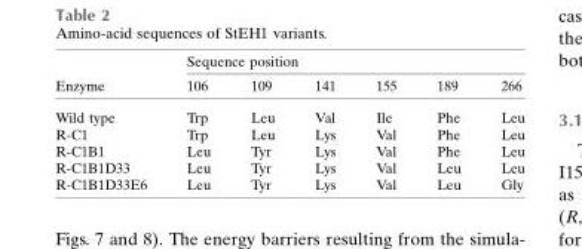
<table><thead><tr><td rowspan="2">Enzyme</td><td colspan="6">Sequence position</td></tr><tr><td>106</td><td>109</td><td>141</td><td>155</td><td>189</td><td>266</td></tr></thead><tbody><tr><td>Wild type</td><td>Trp</td><td>Leu</td><td>Val</td><td>Ile</td><td>Phe</td><td>Leu</td></tr><tr><td>R-C1</td><td>Trp</td><td>Leu</td><td>Lys</td><td>Val</td><td>Phe</td><td>Leu</td></tr><tr><td>R-C1B1</td><td>Leu</td><td>Tyr</td><td>Lys</td><td>Val</td><td>Phe</td><td>Leu</td></tr><tr><td>R-C1B1D33</td><td>Leu</td><td>Tyr</td><td>Lys</td><td>Val</td><td>Leu</td><td>Leu</td></tr><tr><td>R-C1B1D33E6</td><td>Leu</td><td>Tyr</td><td>Lys</td><td>Val</td><td>Leu</td><td>Gly</td></tr></tbody></table>